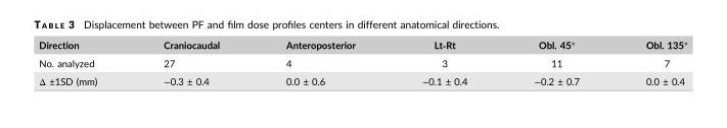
<table><thead><tr><td>Direction</td><td>Craniocaudal</td><td>Anteroposterior</td><td>Lt‐Rt</td><td>Obl. 45°</td><td>Obl. 135°</td></tr></thead><tbody><tr><td>No. analyzed</td><td>27</td><td>4</td><td>3</td><td>11</td><td>7</td></tr><tr><td>Δ ±1SD (mm)</td><td>−0.3 ± 0.4</td><td>0.0 ± 0.6</td><td>−0.1 ± 0.4</td><td>−0.2 ± 0.7</td><td>0.0 ± 0.4</td></tr></tbody></table>